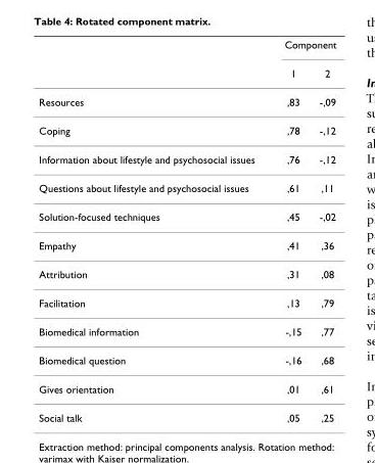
<table><thead><tr><td rowspan="2"></td><td colspan="2">Component</td></tr><tr><td>1</td><td>2</td></tr></thead><tbody><tr><td>Resources</td><td>,83</td><td>-,09</td></tr><tr><td>Coping</td><td>,78</td><td>-,12</td></tr><tr><td>Information about lifestyle and psychosocial issues</td><td>,76</td><td>-,12</td></tr><tr><td>Questions about lifestyle and psychosocial issues</td><td>,61</td><td>,11</td></tr><tr><td>Solution-focused techniques</td><td>,45</td><td>-,02</td></tr><tr><td>Empathy</td><td>,41</td><td>,36</td></tr><tr><td>Attribution</td><td>,31</td><td>,08</td></tr><tr><td>Facilitation</td><td>,13</td><td>,79</td></tr><tr><td>Biomedical information</td><td>-,15</td><td>,77</td></tr><tr><td>Biomedical question</td><td>-,16</td><td>,68</td></tr><tr><td>Gives orientation</td><td>,01</td><td>,61</td></tr><tr><td>Social talk</td><td>,05</td><td>,25</td></tr></tbody></table>